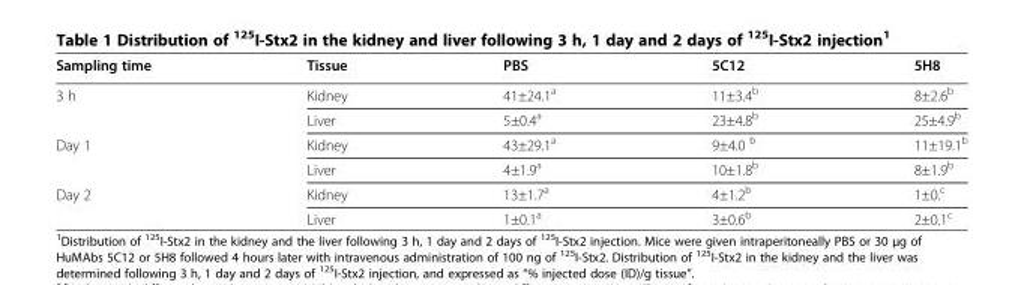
<table><thead><tr><td>Sampling time</td><td>Tissue</td><td>PBS</td><td>5C12</td><td>5H8</td></tr></thead><tbody><tr><td rowspan="2">3 h</td><td>Kidney</td><td>41±24.1<sup>a</sup></td><td>11±3.4<sup>b</sup></td><td>8±2.6<sup>b</sup></td></tr><tr><td>Liver</td><td>5±0.4<sup>a</sup></td><td>23±4.8<sup>b</sup></td><td>25±4.9<sup>b</sup></td></tr><tr><td rowspan="2">Day 1</td><td>Kidney</td><td>43±29.1<sup>a</sup></td><td>9±4.0 <sup>b</sup></td><td>11±19.1<sup>b</sup></td></tr><tr><td>Liver</td><td>4±1.9<sup>a</sup></td><td>10±1.8<sup>b</sup></td><td>8±1.9<sup>b</sup></td></tr><tr><td rowspan="2">Day 2</td><td>Kidney</td><td>13±1.7<sup>a</sup></td><td>4±1.2<sup>b</sup></td><td>1±0.<sup>c</sup></td></tr><tr><td>Liver</td><td>1±0.1<sup>a</sup></td><td>3±0.6<sup>b</sup></td><td>2±0.1<sup>c</sup></td></tr></tbody></table>